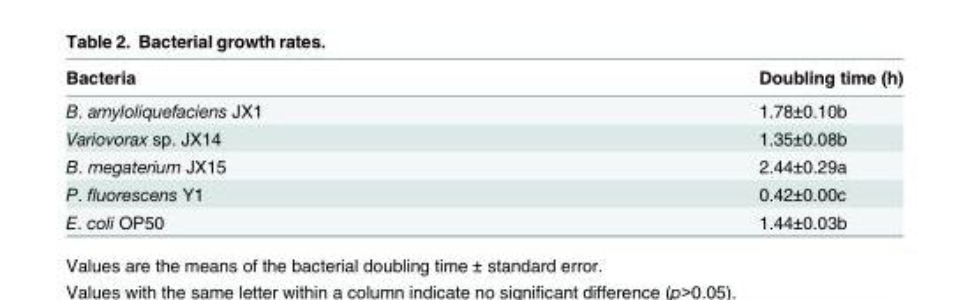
<table><thead><tr><td>Bacteria</td><td>Doubling time (h)</td></tr></thead><tbody><tr><td>B. amyloliquefaciens JX1</td><td>1.78±0.10b</td></tr><tr><td>Variovorax sp. JX14</td><td>1.35±0.08b</td></tr><tr><td>B. megaterium JX15</td><td>2.44±0.29a</td></tr><tr><td>P. fluorescens Y1</td><td>0.42±0.00c</td></tr><tr><td>E. coli OP50</td><td>1.44±0.03b</td></tr></tbody></table>